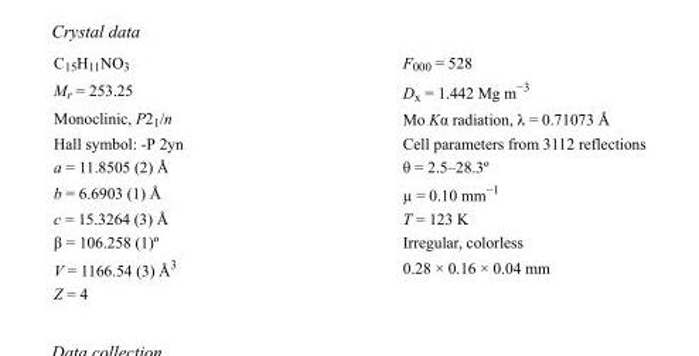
<table><tbody><tr><td>C<sub>15</sub>H<sub>11</sub>NO<sub>3</sub></td><td>F000 = 528</td></tr><tr><td>M<sub>r</sub> = 253.25</td><td>D<sub>x</sub> = 1.442 Mg m<sup>−3</sup></td></tr><tr><td>Monoclinic, P2<sub>1</sub>/n</td><td>Mo Kα radiation, λ = 0.71073 Å</td></tr><tr><td>Hall symbol: -P 2yn</td><td>Cell parameters from 3112 reflections</td></tr><tr><td>a = 11.8505 (2) Å</td><td>θ = 2.5–28.3º</td></tr><tr><td>b = 6.6903 (1) Å</td><td>µ = 0.10 mm<sup>−1</sup></td></tr><tr><td>c = 15.3264 (3) Å</td><td>T = 123 K</td></tr><tr><td>β = 106.258 (1)º</td><td>Irregular, colorless</td></tr><tr><td>V = 1166.54 (3) Å<sup>3</sup></td><td>0.28 × 0.16 × 0.04 mm</td></tr><tr><td>Z = 4</td><td></td></tr></tbody></table>